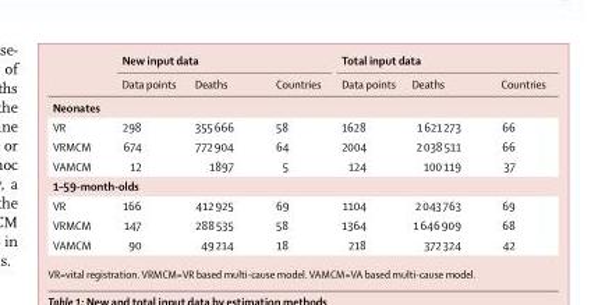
<table><thead><tr><td rowspan="2"></td><td colspan="3">New input data</td><td colspan="3">Total input data</td></tr><tr><td>Data points</td><td>Deaths</td><td>Countries</td><td>Data points</td><td>Deaths</td><td>Countries</td></tr></thead><tbody><tr><td colspan="7">Neonates</td></tr><tr><td>VR</td><td>298</td><td>355 666</td><td>58</td><td>1628</td><td>1 621 273</td><td>66</td></tr><tr><td>VRMCM</td><td>674</td><td>772 904</td><td>64</td><td>2004</td><td>2 038 511</td><td>66</td></tr><tr><td>VAMCM</td><td>12</td><td>1897</td><td>5</td><td>124</td><td>100 119</td><td>37</td></tr><tr><td colspan="7">1–59-month-olds</td></tr><tr><td>VR</td><td>166</td><td>412 925</td><td>69</td><td>1104</td><td>2 043 763</td><td>69</td></tr><tr><td>VRMCM</td><td>147</td><td>288 535</td><td>58</td><td>1364</td><td>1 646 909</td><td>68</td></tr><tr><td>VAMCM</td><td>90</td><td>49 214</td><td>18</td><td>218</td><td>372 324</td><td>42</td></tr></tbody></table>